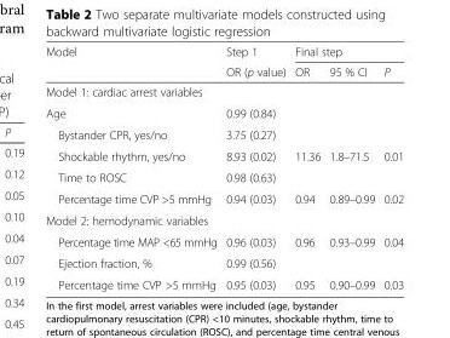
<table><thead><tr><td rowspan="2">Model</td><td rowspan="2">Step 1 OR (p value)</td><td colspan="3">Final step</td></tr><tr><td>OR</td><td>95 % CI</td><td>P</td></tr></thead><tbody><tr><td colspan="5">Model 1: cardiac arrest variables</td></tr><tr><td>Age</td><td>0.99 (0.84)</td><td></td><td></td><td></td></tr><tr><td>Bystander CPR, yes/no</td><td>3.75 (0.27)</td><td></td><td></td><td></td></tr><tr><td>Shockable rhythm, yes/no</td><td>8.93 (0.02)</td><td>11.36</td><td>1.8–71.5</td><td>0.01</td></tr><tr><td>Time to ROSC</td><td>0.98 (0.63)</td><td></td><td></td><td></td></tr><tr><td>Percentage time CVP &gt;5 mmHg</td><td>0.94 (0.03)</td><td>0.94</td><td>0.89–0.99</td><td>0.02</td></tr><tr><td colspan="5">Model 2: hemodynamic variables</td></tr><tr><td>Percentage time MAP &lt;65 mmHg</td><td>0.96 (0.03)</td><td>0.96</td><td>0.93–0.99</td><td>0.04</td></tr><tr><td>Ejection fraction, %</td><td>0.99 (0.56)</td><td></td><td></td><td></td></tr><tr><td>Percentage time CVP &gt;5 mmHg</td><td>0.95 (0.03)</td><td>0.95</td><td>0.90–0.99</td><td>0.03</td></tr></tbody></table>